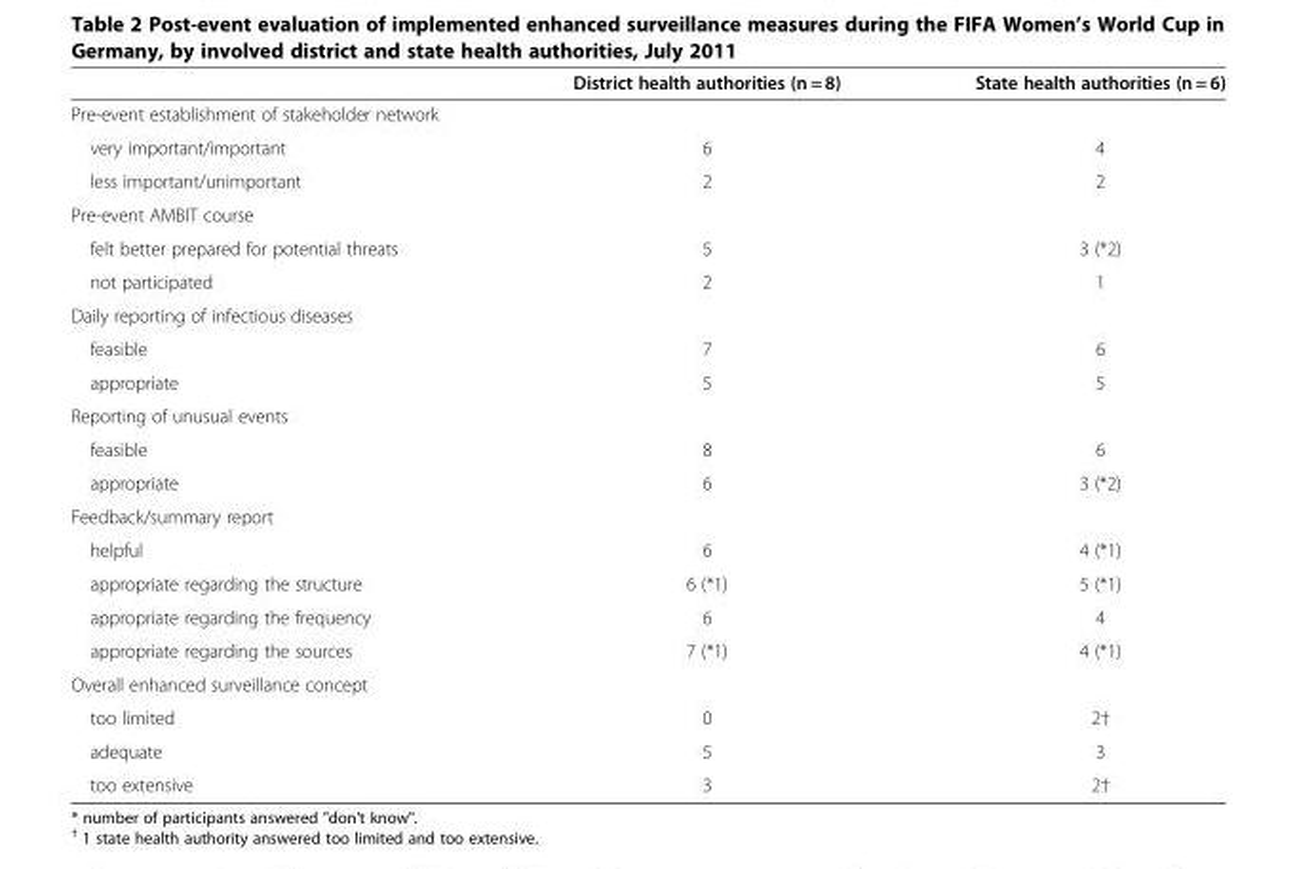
<table><thead><tr><td></td><td>District health authorities (n = 8)</td><td>State health authorities (n = 6)</td></tr></thead><tbody><tr><td colspan="3">Pre-event establishment of stakeholder network</td></tr><tr><td>very important/important</td><td>6</td><td>4</td></tr><tr><td>less important/unimportant</td><td>2</td><td>2</td></tr><tr><td colspan="3">Pre-event AMBIT course</td></tr><tr><td>felt better prepared for potential threats</td><td>5</td><td>3 (*2)</td></tr><tr><td>not participated</td><td>2</td><td>1</td></tr><tr><td colspan="3">Daily reporting of infectious diseases</td></tr><tr><td>feasible</td><td>7</td><td>6</td></tr><tr><td>appropriate</td><td>5</td><td>5</td></tr><tr><td colspan="3">Reporting of unusual events</td></tr><tr><td>feasible</td><td>8</td><td>6</td></tr><tr><td>appropriate</td><td>6</td><td>3 (*2)</td></tr><tr><td colspan="3">Feedback/summary report</td></tr><tr><td>helpful</td><td>6</td><td>4 (*1)</td></tr><tr><td>appropriate regarding the structure</td><td>6 (*1)</td><td>5 (*1)</td></tr><tr><td>appropriate regarding the frequency</td><td>6</td><td>4</td></tr><tr><td>appropriate regarding the sources</td><td>7 (*1)</td><td>4 (*1)</td></tr><tr><td colspan="3">Overall enhanced surveillance concept</td></tr><tr><td>too limited</td><td>0</td><td>2†</td></tr><tr><td>adequate</td><td>5</td><td>3</td></tr><tr><td>too extensive</td><td>3</td><td>2†</td></tr></tbody></table>